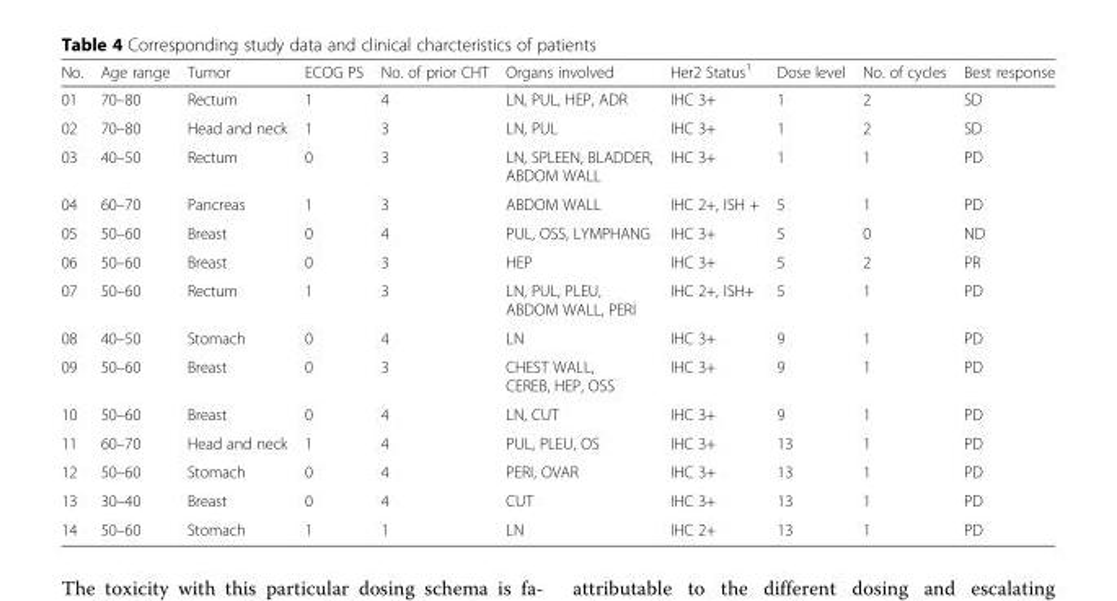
<table><thead><tr><td>No.</td><td>Age range</td><td>Tumor</td><td>ECOG PS</td><td>No. of prior CHT</td><td>Organs involved</td><td>Her2 Status<sup>1</sup></td><td>Dose level</td><td>No. of cycles</td><td>Best response</td></tr></thead><tbody><tr><td>01</td><td>70–80</td><td>Rectum</td><td>1</td><td>4</td><td>LN, PUL, HEP, ADR</td><td>IHC 3+</td><td>1</td><td>2</td><td>SD</td></tr><tr><td>02</td><td>70–80</td><td>Head and neck</td><td>1</td><td>3</td><td>LN, PUL</td><td>IHC 3+</td><td>1</td><td>2</td><td>SD</td></tr><tr><td>03</td><td>40–50</td><td>Rectum</td><td>0</td><td>3</td><td>LN, SPLEEN, BLADDER, ABDOM WALL</td><td>IHC 3+</td><td>1</td><td>1</td><td>PD</td></tr><tr><td>04</td><td>60–70</td><td>Pancreas</td><td>1</td><td>3</td><td>ABDOM WALL</td><td>IHC 2+, ISH +</td><td>5</td><td>1</td><td>PD</td></tr><tr><td>05</td><td>50–60</td><td>Breast</td><td>0</td><td>4</td><td>PUL, OSS, LYMPHANG</td><td>IHC 3+</td><td>5</td><td>0</td><td>ND</td></tr><tr><td>06</td><td>50–60</td><td>Breast</td><td>0</td><td>3</td><td>HEP</td><td>IHC 3+</td><td>5</td><td>2</td><td>PR</td></tr><tr><td>07</td><td>50–60</td><td>Rectum</td><td>1</td><td>3</td><td>LN, PUL, PLEU, ABDOM WALL, PERI</td><td>IHC 2+, ISH+</td><td>5</td><td>1</td><td>PD</td></tr><tr><td>08</td><td>40–50</td><td>Stomach</td><td>0</td><td>4</td><td>LN</td><td>IHC 3+</td><td>9</td><td>1</td><td>PD</td></tr><tr><td>09</td><td>50–60</td><td>Breast</td><td>0</td><td>3</td><td>CHEST WALL, CEREB, HEP, OSS</td><td>IHC 3+</td><td>9</td><td>1</td><td>PD</td></tr><tr><td>10</td><td>50–60</td><td>Breast</td><td>0</td><td>4</td><td>LN, CUT</td><td>IHC 3+</td><td>9</td><td>1</td><td>PD</td></tr><tr><td>11</td><td>60–70</td><td>Head and neck</td><td>1</td><td>4</td><td>PUL, PLEU, OS</td><td>IHC 3+</td><td>13</td><td>1</td><td>PD</td></tr><tr><td>12</td><td>50–60</td><td>Stomach</td><td>0</td><td>4</td><td>PERI, OVAR</td><td>IHC 3+</td><td>13</td><td>1</td><td>PD</td></tr><tr><td>13</td><td>30–40</td><td>Breast</td><td>0</td><td>4</td><td>CUT</td><td>IHC 3+</td><td>13</td><td>1</td><td>PD</td></tr><tr><td>14</td><td>50–60</td><td>Stomach</td><td>1</td><td>1</td><td>LN</td><td>IHC 2+</td><td>13</td><td>1</td><td>PD</td></tr></tbody></table>